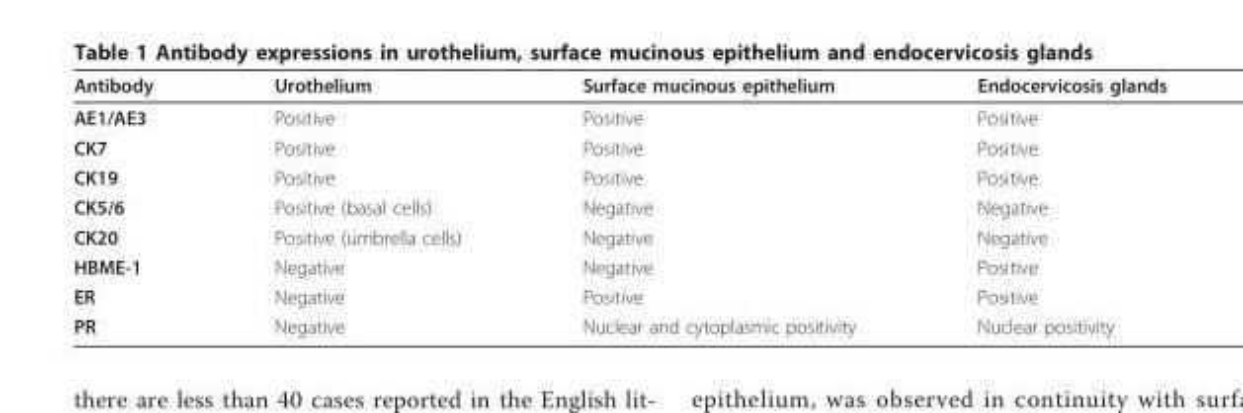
<table><thead><tr><td>Antibody</td><td>Urothelium</td><td>Surface mucinous epithelium</td><td>Endocervicosis glands</td></tr></thead><tbody><tr><td>AE1/AE3</td><td>Positive</td><td>Positive</td><td>Positive</td></tr><tr><td>CK7</td><td>Positive</td><td>Positive</td><td>Positive</td></tr><tr><td>CK19</td><td>Positive</td><td>Positive</td><td>Positive</td></tr><tr><td>CK5/6</td><td>Positive (basal cells)</td><td>Negative</td><td>Negative</td></tr><tr><td>CK20</td><td>Positive (umbrella cells)</td><td>Negative</td><td>Negative</td></tr><tr><td>HBME-1</td><td>Negative</td><td>Negative</td><td>Positive</td></tr><tr><td>ER</td><td>Negative</td><td>Positive</td><td>Positive</td></tr><tr><td>PR</td><td>Negative</td><td>Nuclear and cytoplasmic positivity</td><td>Nuclear positivity</td></tr></tbody></table>